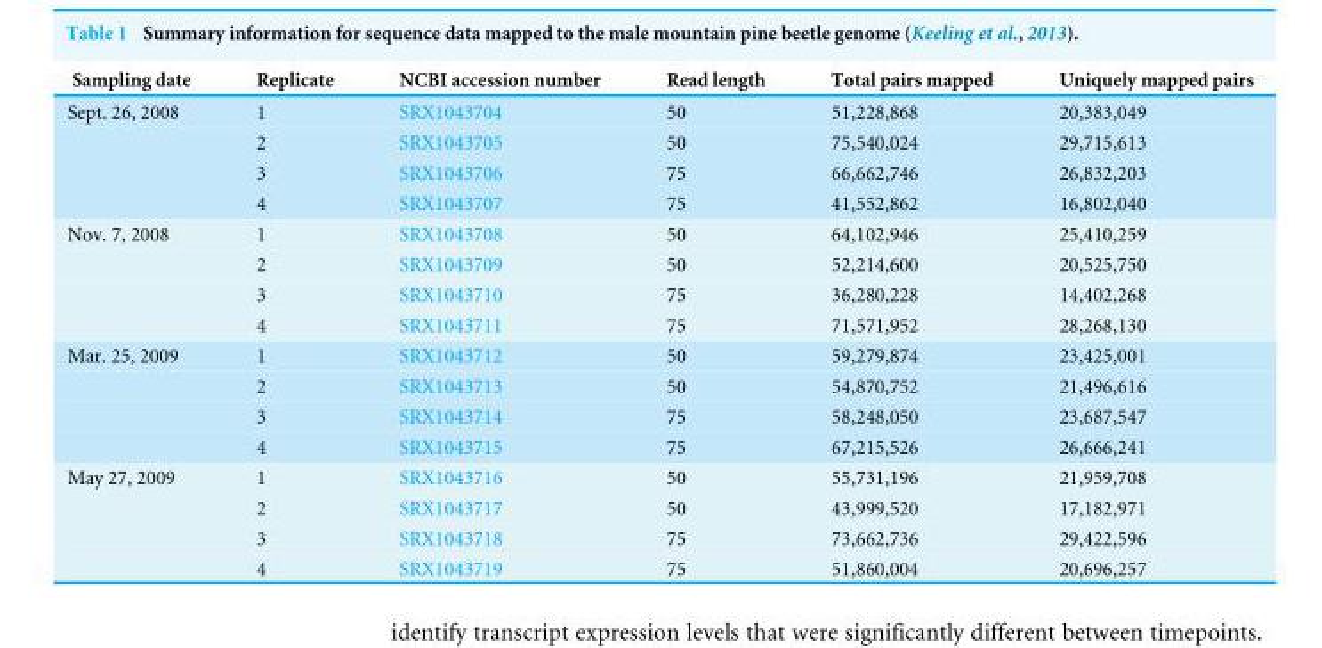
<table><thead><tr><td>Sampling date</td><td>Replicate</td><td>NCBI accession number</td><td>Read length</td><td>Total pairs mapped</td><td>Uniquely mapped pairs</td></tr></thead><tbody><tr><td rowspan="4">Sept. 26, 2008</td><td>1</td><td>SRX1043704</td><td>50</td><td>51,228,868</td><td>20,383,049</td></tr><tr><td>2</td><td>SRX1043705</td><td>50</td><td>75,540,024</td><td>29,715,613</td></tr><tr><td>3</td><td>SRX1043706</td><td>75</td><td>66,662,746</td><td>26,832,203</td></tr><tr><td>4</td><td>SRX1043707</td><td>75</td><td>41,552,862</td><td>16,802,040</td></tr><tr><td rowspan="4">Nov. 7, 2008</td><td>1</td><td>SRX1043708</td><td>50</td><td>64,102,946</td><td>25,410,259</td></tr><tr><td>2</td><td>SRX1043709</td><td>50</td><td>52,214,600</td><td>20,525,750</td></tr><tr><td>3</td><td>SRX1043710</td><td>75</td><td>36,280,228</td><td>14,402,268</td></tr><tr><td>4</td><td>SRX1043711</td><td>75</td><td>71,571,952</td><td>28,268,130</td></tr><tr><td rowspan="4">Mar. 25, 2009</td><td>1</td><td>SRX1043712</td><td>50</td><td>59,279,874</td><td>23,425,001</td></tr><tr><td>2</td><td>SRX1043713</td><td>50</td><td>54,870,752</td><td>21,496,616</td></tr><tr><td>3</td><td>SRX1043714</td><td>75</td><td>58,248,050</td><td>23,687,547</td></tr><tr><td>4</td><td>SRX1043715</td><td>75</td><td>67,215,526</td><td>26,666,241</td></tr><tr><td rowspan="4">May 27, 2009</td><td>1</td><td>SRX1043716</td><td>50</td><td>55,731,196</td><td>21,959,708</td></tr><tr><td>2</td><td>SRX1043717</td><td>50</td><td>43,999,520</td><td>17,182,971</td></tr><tr><td>3</td><td>SRX1043718</td><td>75</td><td>73,662,736</td><td>29,422,596</td></tr><tr><td>4</td><td>SRX1043719</td><td>75</td><td>51,860,004</td><td>20,696,257</td></tr></tbody></table>